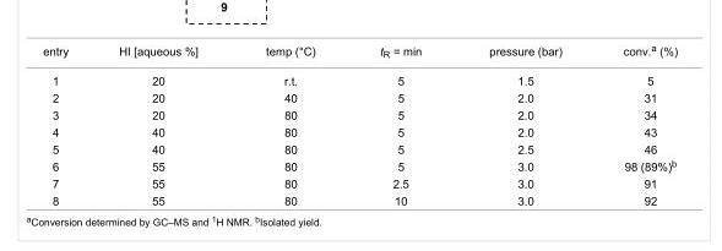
<table><tbody><tr><td>entry</td><td>HI [aqueous %]</td><td>temp (°C)</td><td>t<sub>R</sub> = min</td><td>pressure (bar)</td><td>conv.<sup>a</sup> (%)</td></tr><tr><td>1</td><td>20</td><td>r.t.</td><td>5</td><td>1.5</td><td>5</td></tr><tr><td>2</td><td>20</td><td>40</td><td>5</td><td>2.0</td><td>31</td></tr><tr><td>3</td><td>20</td><td>80</td><td>5</td><td>2.0</td><td>34</td></tr><tr><td>4</td><td>40</td><td>80</td><td>5</td><td>2.0</td><td>43</td></tr><tr><td>5</td><td>40</td><td>80</td><td>5</td><td>2.5</td><td>46</td></tr><tr><td>6</td><td>55</td><td>80</td><td>5</td><td>3.0</td><td>98 (89%)<sup>b</sup></td></tr><tr><td>7</td><td>55</td><td>80</td><td>2.5</td><td>3.0</td><td>91</td></tr><tr><td>8</td><td>55</td><td>80</td><td>10</td><td>3.0</td><td>92</td></tr></tbody></table>